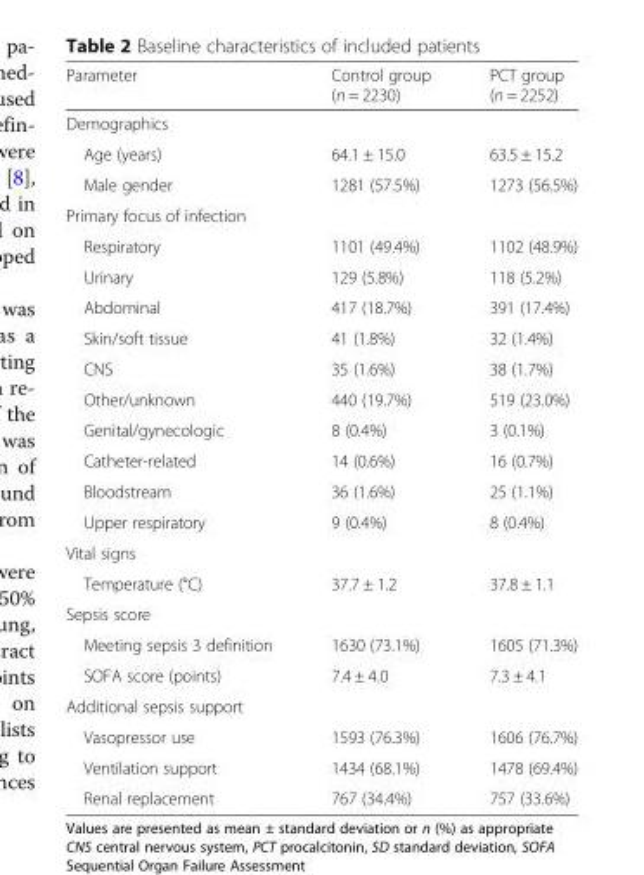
<table><thead><tr><td>Parameter</td><td>Control group (n = 2230)</td><td>PCT group (n = 2252)</td></tr></thead><tbody><tr><td colspan="3">Demographics</td></tr><tr><td>Age (years)</td><td>64.1 ± 15.0</td><td>63.5 ± 15.2</td></tr><tr><td>Male gender</td><td>1281 (57.5%)</td><td>1273 (56.5%)</td></tr><tr><td colspan="3">Primary focus of infection</td></tr><tr><td>Respiratory</td><td>1101 (49.4%)</td><td>1102 (48.9%)</td></tr><tr><td>Urinary</td><td>129 (5.8%)</td><td>118 (5.2%)</td></tr><tr><td>Abdominal</td><td>417 (18.7%)</td><td>391 (17.4%)</td></tr><tr><td>Skin/soft tissue</td><td>41 (1.8%)</td><td>32 (1.4%)</td></tr><tr><td>CNS</td><td>35 (1.6%)</td><td>38 (1.7%)</td></tr><tr><td>Other/unknown</td><td>440 (19.7%)</td><td>519 (23.0%)</td></tr><tr><td>Genital/gynecologic</td><td>8 (0.4%)</td><td>3 (0.1%)</td></tr><tr><td>Catheter-related</td><td>14 (0.6%)</td><td>16 (0.7%)</td></tr><tr><td>Bloodstream</td><td>36 (1.6%)</td><td>25 (1.1%)</td></tr><tr><td>Upper respiratory</td><td>9 (0.4%)</td><td>8 (0.4%)</td></tr><tr><td colspan="3">Vital signs</td></tr><tr><td>Temperature (°C)</td><td>37.7 ± 1.2</td><td>37.8 ± 1.1</td></tr><tr><td colspan="3">Sepsis score</td></tr><tr><td>Meeting sepsis 3 definition</td><td>1630 (73.1%)</td><td>1605 (71.3%)</td></tr><tr><td>SOFA score (points)</td><td>7.4 ± 4.0</td><td>7.3 ± 4.1</td></tr><tr><td colspan="3">Additional sepsis support</td></tr><tr><td>Vasopressor use</td><td>1593 (76.3%)</td><td>1606 (76.7%)</td></tr><tr><td>Ventilation support</td><td>1434 (68.1%)</td><td>1478 (69.4%)</td></tr><tr><td>Renal replacement</td><td>767 (34.4%)</td><td>757 (33.6%)</td></tr></tbody></table>